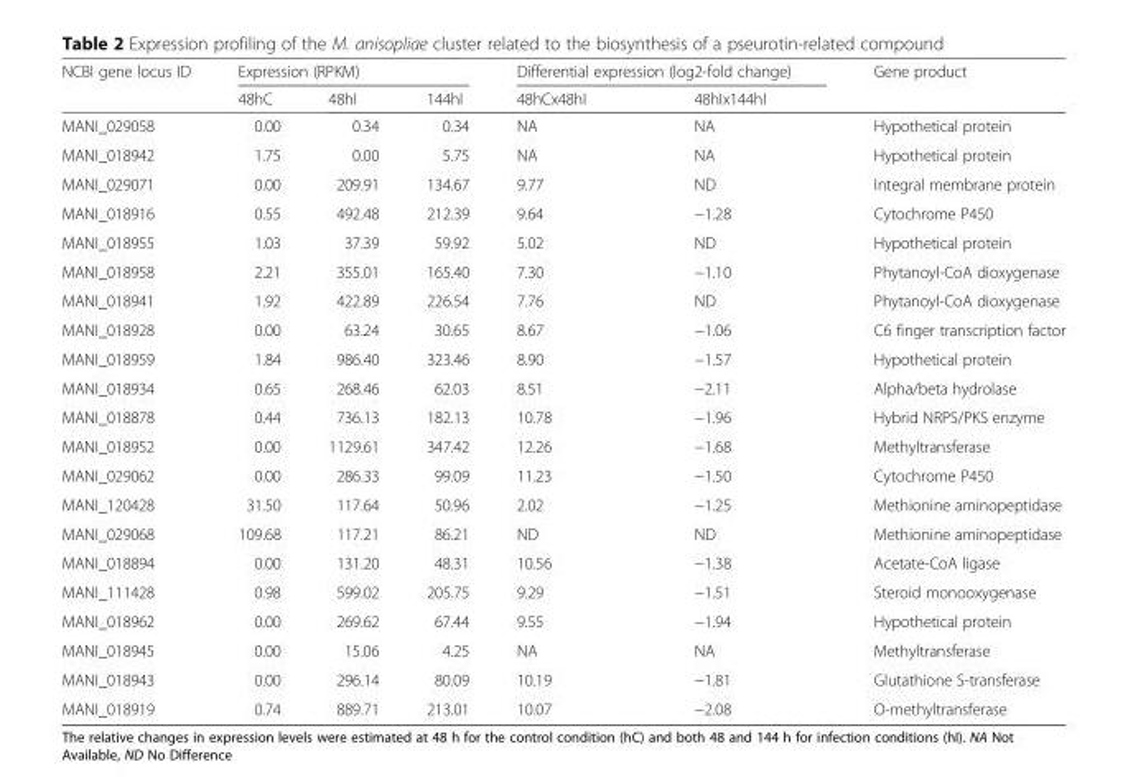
<table><thead><tr><td rowspan="2">NCBI gene locus ID</td><td colspan="3">Expression (RPKM)</td><td colspan="2">Differential expression (log2-fold change)</td><td rowspan="2">Gene product</td></tr><tr><td>48hC</td><td>48hI</td><td>144hI</td><td>48hCx48hI</td><td>48hIx144hI</td></tr></thead><tbody><tr><td>MANI_029058</td><td>0.00</td><td>0.34</td><td>0.34</td><td>NA</td><td>NA</td><td>Hypothetical protein</td></tr><tr><td>MANI_018942</td><td>1.75</td><td>0.00</td><td>5.75</td><td>NA</td><td>NA</td><td>Hypothetical protein</td></tr><tr><td>MANI_029071</td><td>0.00</td><td>209.91</td><td>134.67</td><td>9.77</td><td>ND</td><td>Integral membrane protein</td></tr><tr><td>MANI_018916</td><td>0.55</td><td>492.48</td><td>212.39</td><td>9.64</td><td>−1.28</td><td>Cytochrome P450</td></tr><tr><td>MANI_018955</td><td>1.03</td><td>37.39</td><td>59.92</td><td>5.02</td><td>ND</td><td>Hypothetical protein</td></tr><tr><td>MANI_018958</td><td>2.21</td><td>355.01</td><td>165.40</td><td>7.30</td><td>−1.10</td><td>Phytanoyl-CoA dioxygenase</td></tr><tr><td>MANI_018941</td><td>1.92</td><td>422.89</td><td>226.54</td><td>7.76</td><td>ND</td><td>Phytanoyl-CoA dioxygenase</td></tr><tr><td>MANI_018928</td><td>0.00</td><td>63.24</td><td>30.65</td><td>8.67</td><td>−1.06</td><td>C6 finger transcription factor</td></tr><tr><td>MANI_018959</td><td>1.84</td><td>986.40</td><td>323.46</td><td>8.90</td><td>−1.57</td><td>Hypothetical protein</td></tr><tr><td>MANI_018934</td><td>0.65</td><td>268.46</td><td>62.03</td><td>8.51</td><td>−2.11</td><td>Alpha/beta hydrolase</td></tr><tr><td>MANI_018878</td><td>0.44</td><td>736.13</td><td>182.13</td><td>10.78</td><td>−1.96</td><td>Hybrid NRPS/PKS enzyme</td></tr><tr><td>MANI_018952</td><td>0.00</td><td>1129.61</td><td>347.42</td><td>12.26</td><td>−1.68</td><td>Methyltransferase</td></tr><tr><td>MANI_029062</td><td>0.00</td><td>286.33</td><td>99.09</td><td>11.23</td><td>−1.50</td><td>Cytochrome P450</td></tr><tr><td>MANI_120428</td><td>31.50</td><td>117.64</td><td>50.96</td><td>2.02</td><td>−1.25</td><td>Methionine aminopeptidase</td></tr><tr><td>MANI_029068</td><td>109.68</td><td>117.21</td><td>86.21</td><td>ND</td><td>ND</td><td>Methionine aminopeptidase</td></tr><tr><td>MANI_018894</td><td>0.00</td><td>131.20</td><td>48.31</td><td>10.56</td><td>−1.38</td><td>Acetate-CoA ligase</td></tr><tr><td>MANI_111428</td><td>0.98</td><td>599.02</td><td>205.75</td><td>9.29</td><td>−1.51</td><td>Steroid monooxygenase</td></tr><tr><td>MANI_018962</td><td>0.00</td><td>269.62</td><td>67.44</td><td>9.55</td><td>−1.94</td><td>Hypothetical protein</td></tr><tr><td>MANI_018945</td><td>0.00</td><td>15.06</td><td>4.25</td><td>NA</td><td>NA</td><td>Methyltransferase</td></tr><tr><td>MANI_018943</td><td>0.00</td><td>296.14</td><td>80.09</td><td>10.19</td><td>−1.81</td><td>Glutathione S-transferase</td></tr><tr><td>MANI_018919</td><td>0.74</td><td>889.71</td><td>213.01</td><td>10.07</td><td>−2.08</td><td>O-methyltransferase</td></tr></tbody></table>